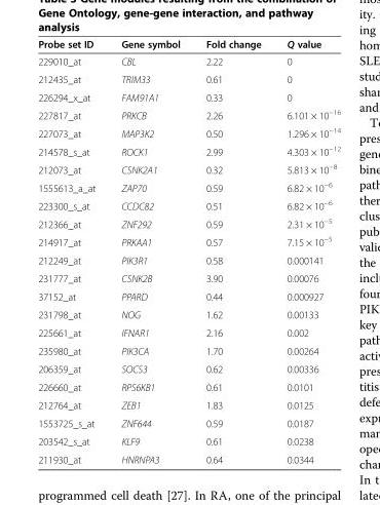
<table><thead><tr><td>Probe set ID</td><td>Gene symbol</td><td>Fold change</td><td>Q value</td></tr></thead><tbody><tr><td>229010_at</td><td>CBL</td><td>2.22</td><td>0</td></tr><tr><td>212435_at</td><td>TRIM33</td><td>0.61</td><td>0</td></tr><tr><td>226294_x_at</td><td>FAM91A1</td><td>0.33</td><td>0</td></tr><tr><td>227817_at</td><td>PRKCB</td><td>2.26</td><td>6.101 × 10<sup>−16</sup></td></tr><tr><td>227073_at</td><td>MAP3K2</td><td>0.50</td><td>1.296 × 10<sup>−14</sup></td></tr><tr><td>214578_s_at</td><td>ROCK1</td><td>2.99</td><td>4.303 × 10<sup>−12</sup></td></tr><tr><td>212073_at</td><td>CSNK2A1</td><td>0.32</td><td>5.813 × 10<sup>−8</sup></td></tr><tr><td>1555613_a_at</td><td>ZAP70</td><td>0.59</td><td>6.82 × 10<sup>−6</sup></td></tr><tr><td>223300_s_at</td><td>CCDC82</td><td>0.51</td><td>6.82 × 10<sup>−6</sup></td></tr><tr><td>212366_at</td><td>ZNF292</td><td>0.59</td><td>2.31 × 10<sup>−5</sup></td></tr><tr><td>214917_at</td><td>PRKAA1</td><td>0.57</td><td>7.15 × 10<sup>−5</sup></td></tr><tr><td>212249_at</td><td>PIK3R1</td><td>0.58</td><td>0.000141</td></tr><tr><td>231777_at</td><td>CSNK2B</td><td>3.90</td><td>0.00076</td></tr><tr><td>37152_at</td><td>PPARD</td><td>0.44</td><td>0.000927</td></tr><tr><td>231798_at</td><td>NOG</td><td>1.62</td><td>0.00133</td></tr><tr><td>225661_at</td><td>IFNAR1</td><td>2.16</td><td>0.002</td></tr><tr><td>235980_at</td><td>PIK3CA</td><td>1.70</td><td>0.00264</td></tr><tr><td>206359_at</td><td>SOCS3</td><td>0.62</td><td>0.00336</td></tr><tr><td>226660_at</td><td>RPS6KB1</td><td>0.61</td><td>0.0101</td></tr><tr><td>212764_at</td><td>ZEB1</td><td>1.83</td><td>0.0125</td></tr><tr><td>1553725_s_at</td><td>ZNF644</td><td>0.59</td><td>0.0187</td></tr><tr><td>203542_s_at</td><td>KLF9</td><td>0.61</td><td>0.0238</td></tr><tr><td>211930_at</td><td>HNRNPA3</td><td>0.64</td><td>0.0344</td></tr></tbody></table>